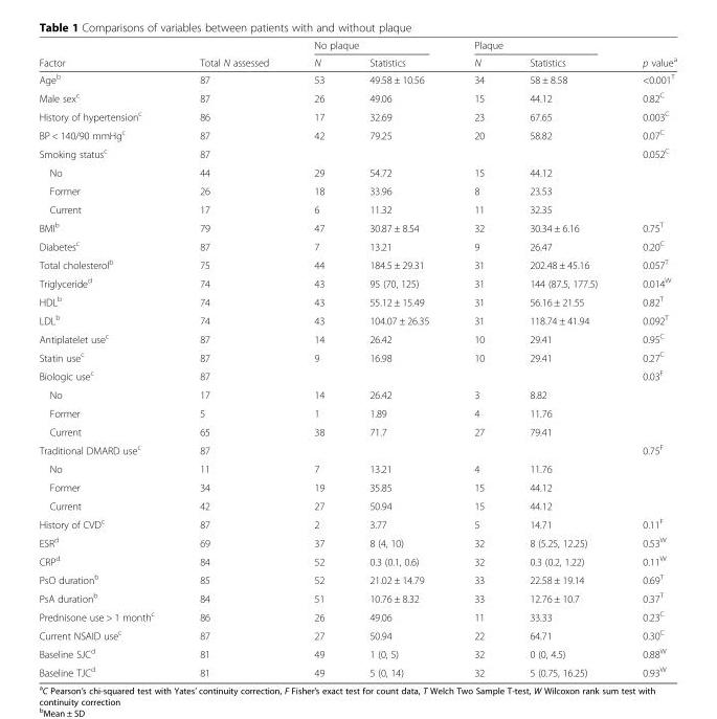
<table><thead><tr><td rowspan="2">Factor</td><td rowspan="2">Total N assessed</td><td colspan="2">No plaque</td><td colspan="2">Plaque</td><td rowspan="2">p value<sup>a</sup></td></tr><tr><td>N</td><td>Statistics</td><td>N</td><td>Statistics</td></tr></thead><tbody><tr><td>Age<sup>b</sup></td><td>87</td><td>53</td><td>49.58 ± 10.56</td><td>34</td><td>58 ± 8.58</td><td>&lt;0.001<sup>T</sup></td></tr><tr><td>Male sex<sup>c</sup></td><td>87</td><td>26</td><td>49.06</td><td>15</td><td>44.12</td><td>0.82<sup>C</sup></td></tr><tr><td>History of hypertension<sup>c</sup></td><td>86</td><td>17</td><td>32.69</td><td>23</td><td>67.65</td><td>0.003<sup>C</sup></td></tr><tr><td>BP &lt; 140/90 mmHg<sup>c</sup></td><td>87</td><td>42</td><td>79.25</td><td>20</td><td>58.82</td><td>0.07<sup>C</sup></td></tr><tr><td>Smoking status<sup>c</sup></td><td>87</td><td></td><td></td><td></td><td></td><td>0.052<sup>C</sup></td></tr><tr><td>No</td><td>44</td><td>29</td><td>54.72</td><td>15</td><td>44.12</td><td></td></tr><tr><td>Former</td><td>26</td><td>18</td><td>33.96</td><td>8</td><td>23.53</td><td></td></tr><tr><td>Current</td><td>17</td><td>6</td><td>11.32</td><td>11</td><td>32.35</td><td></td></tr><tr><td>BMI<sup>b</sup></td><td>79</td><td>47</td><td>30.87 ± 8.54</td><td>32</td><td>30.34 ± 6.16</td><td>0.75<sup>T</sup></td></tr><tr><td>Diabetes<sup>c</sup></td><td>87</td><td>7</td><td>13.21</td><td>9</td><td>26.47</td><td>0.20<sup>C</sup></td></tr><tr><td>Total cholesterol<sup>b</sup></td><td>75</td><td>44</td><td>184.5 ± 29.31</td><td>31</td><td>202.48 ± 45.16</td><td>0.057<sup>T</sup></td></tr><tr><td>Triglyceride<sup>d</sup></td><td>74</td><td>43</td><td>95 (70, 125)</td><td>31</td><td>144 (87.5, 177.5)</td><td>0.014<sup>W</sup></td></tr><tr><td>HDL<sup>b</sup></td><td>74</td><td>43</td><td>55.12 ± 15.49</td><td>31</td><td>56.16 ± 21.55</td><td>0.82<sup>T</sup></td></tr><tr><td>LDL<sup>b</sup></td><td>74</td><td>43</td><td>104.07 ± 26.35</td><td>31</td><td>118.74 ± 41.94</td><td>0.092<sup>T</sup></td></tr><tr><td>Antiplatelet use<sup>c</sup></td><td>87</td><td>14</td><td>26.42</td><td>10</td><td>29.41</td><td>0.95<sup>C</sup></td></tr><tr><td>Statin use<sup>c</sup></td><td>87</td><td>9</td><td>16.98</td><td>10</td><td>29.41</td><td>0.27<sup>C</sup></td></tr><tr><td>Biologic use<sup>c</sup></td><td>87</td><td></td><td></td><td></td><td></td><td>0.03<sup>F</sup></td></tr><tr><td>No</td><td>17</td><td>14</td><td>26.42</td><td>3</td><td>8.82</td><td></td></tr><tr><td>Former</td><td>5</td><td>1</td><td>1.89</td><td>4</td><td>11.76</td><td></td></tr><tr><td>Current</td><td>65</td><td>38</td><td>71.7</td><td>27</td><td>79.41</td><td></td></tr><tr><td>Traditional DMARD use<sup>c</sup></td><td>87</td><td></td><td></td><td></td><td></td><td>0.75<sup>F</sup></td></tr><tr><td>No</td><td>11</td><td>7</td><td>13.21</td><td>4</td><td>11.76</td><td></td></tr><tr><td>Former</td><td>34</td><td>19</td><td>35.85</td><td>15</td><td>44.12</td><td></td></tr><tr><td>Current</td><td>42</td><td>27</td><td>50.94</td><td>15</td><td>44.12</td><td></td></tr><tr><td>History of CVD<sup>c</sup></td><td>87</td><td>2</td><td>3.77</td><td>5</td><td>14.71</td><td>0.11<sup>F</sup></td></tr><tr><td>ESR<sup>d</sup></td><td>69</td><td>37</td><td>8 (4, 10)</td><td>32</td><td>8 (5.25, 12.25)</td><td>0.53<sup>W</sup></td></tr><tr><td>CRP<sup>d</sup></td><td>84</td><td>52</td><td>0.3 (0.1, 0.6)</td><td>32</td><td>0.3 (0.2, 1.22)</td><td>0.11<sup>W</sup></td></tr><tr><td>PsO duration<sup>b</sup></td><td>85</td><td>52</td><td>21.02 ± 14.79</td><td>33</td><td>22.58 ± 19.14</td><td>0.69<sup>T</sup></td></tr><tr><td>PsA duration<sup>b</sup></td><td>84</td><td>51</td><td>10.76 ± 8.32</td><td>33</td><td>12.76 ± 10.7</td><td>0.37<sup>T</sup></td></tr><tr><td>Prednisone use &gt; 1 month<sup>c</sup></td><td>86</td><td>26</td><td>49.06</td><td>11</td><td>33.33</td><td>0.23<sup>C</sup></td></tr><tr><td>Current NSAID use<sup>c</sup></td><td>87</td><td>27</td><td>50.94</td><td>22</td><td>64.71</td><td>0.30<sup>C</sup></td></tr><tr><td>Baseline SJC<sup>d</sup></td><td>81</td><td>49</td><td>1 (0, 5)</td><td>32</td><td>0 (0, 4.5)</td><td>0.88<sup>W</sup></td></tr><tr><td>Baseline TJC<sup>d</sup></td><td>81</td><td>49</td><td>5 (0, 14)</td><td>32</td><td>5 (0.75, 16.25)</td><td>0.93<sup>W</sup></td></tr></tbody></table>